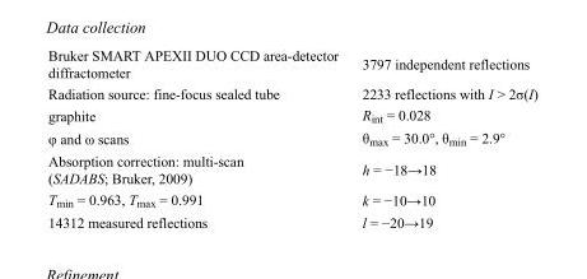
<table><tbody><tr><td>Bruker SMART APEXII DUO CCD area-detector diffractometer</td><td>3797 independent reflections</td></tr><tr><td>Radiation source: fine-focus sealed tube</td><td>2233 reflections with I &gt; 2σ(I)</td></tr><tr><td>graphite</td><td>R<sub>int</sub> = 0.028</td></tr><tr><td>φ and ω scans</td><td>θ<sub>max</sub> = 30.0°, θ<sub>min</sub> = 2.9°</td></tr><tr><td>Absorption correction: multi-scan (SADABS; Bruker, 2009)</td><td>h = −18→18</td></tr><tr><td>T<sub>min</sub> = 0.963, T<sub>max</sub> = 0.991</td><td>k = −10→10</td></tr><tr><td>14312 measured reflections</td><td>l = −20→19</td></tr></tbody></table>